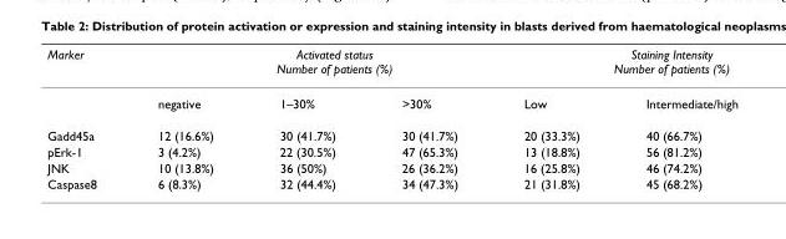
<table><thead><tr><td rowspan="2">Marker</td><td colspan="3">Activated status Number of patients (%)</td><td colspan="2">Staining Intensity Number of patients (%)</td></tr><tr><td>negative</td><td>1–30%</td><td>&gt;30%</td><td>Low</td><td>Intermediate/high</td></tr></thead><tbody><tr><td>Gadd45a</td><td>12 (16.6%)</td><td>30 (41.7%)</td><td>30 (41.7%)</td><td>20 (33.3%)</td><td>40 (66.7%)</td></tr><tr><td>pErk-1</td><td>3 (4.2%)</td><td>22 (30.5%)</td><td>47 (65.3%)</td><td>13 (18.8%)</td><td>56 (81.2%)</td></tr><tr><td>JNK</td><td>10 (13.8%)</td><td>36 (50%)</td><td>26 (36.2%)</td><td>16 (25.8%)</td><td>46 (74.2%)</td></tr><tr><td>Caspase8</td><td>6 (8.3%)</td><td>32 (44.4%)</td><td>34 (47.3%)</td><td>21 (31.8%)</td><td>45 (68.2%)</td></tr></tbody></table>